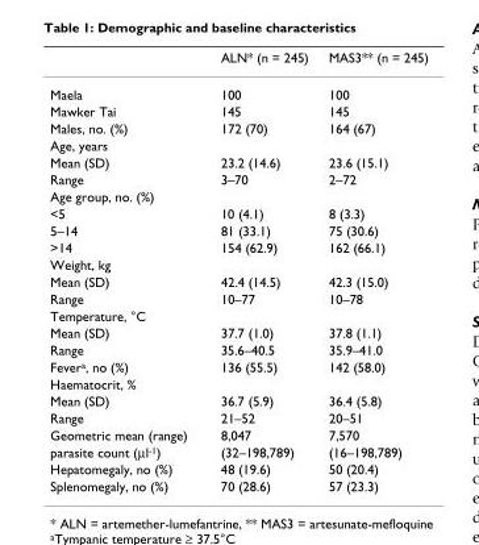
<table><thead><tr><td></td><td>ALN* (n = 245)</td><td>MAS3** (n = 245)</td></tr></thead><tbody><tr><td>Maela</td><td>100</td><td>100</td></tr><tr><td>Mawker Tai</td><td>145</td><td>145</td></tr><tr><td>Males, no. (%)</td><td>172 (70)</td><td>164 (67)</td></tr><tr><td colspan="3">Age, years</td></tr><tr><td>Mean (SD)</td><td>23.2 (14.6)</td><td>23.6 (15.1)</td></tr><tr><td>Range</td><td>3–70</td><td>2–72</td></tr><tr><td colspan="3">Age group, no. (%)</td></tr><tr><td>&lt;5</td><td>10 (4.1)</td><td>8 (3.3)</td></tr><tr><td>5–14</td><td>81 (33.1)</td><td>75 (30.6)</td></tr><tr><td>&gt;14</td><td>154 (62.9)</td><td>162 (66.1)</td></tr><tr><td colspan="3">Weight, kg</td></tr><tr><td>Mean (SD)</td><td>42.4 (14.5)</td><td>42.3 (15.0)</td></tr><tr><td>Range</td><td>10–77</td><td>10–78</td></tr><tr><td colspan="3">Temperature, °C</td></tr><tr><td>Mean (SD)</td><td>37.7 (1.0)</td><td>37.8 (1.1)</td></tr><tr><td>Range</td><td>35.6–40.5</td><td>35.9–41.0</td></tr><tr><td>Fever<sup>a</sup>, no (%)</td><td>136 (55.5)</td><td>142 (58.0)</td></tr><tr><td colspan="3">Haematocrit, %</td></tr><tr><td>Mean (SD)</td><td>36.7 (5.9)</td><td>36.4 (5.8)</td></tr><tr><td>Range</td><td>21–52</td><td>20–51</td></tr><tr><td>Geometric mean (range)</td><td>8,047</td><td>7,570</td></tr><tr><td>parasite count (µl<sup>-1</sup>)</td><td>(32–198,789)</td><td>(16–198,789)</td></tr><tr><td>Hepatomegaly, no (%)</td><td>48 (19.6)</td><td>50 (20.4)</td></tr><tr><td>Splenomegaly, no (%)</td><td>70 (28.6)</td><td>57 (23.3)</td></tr></tbody></table>